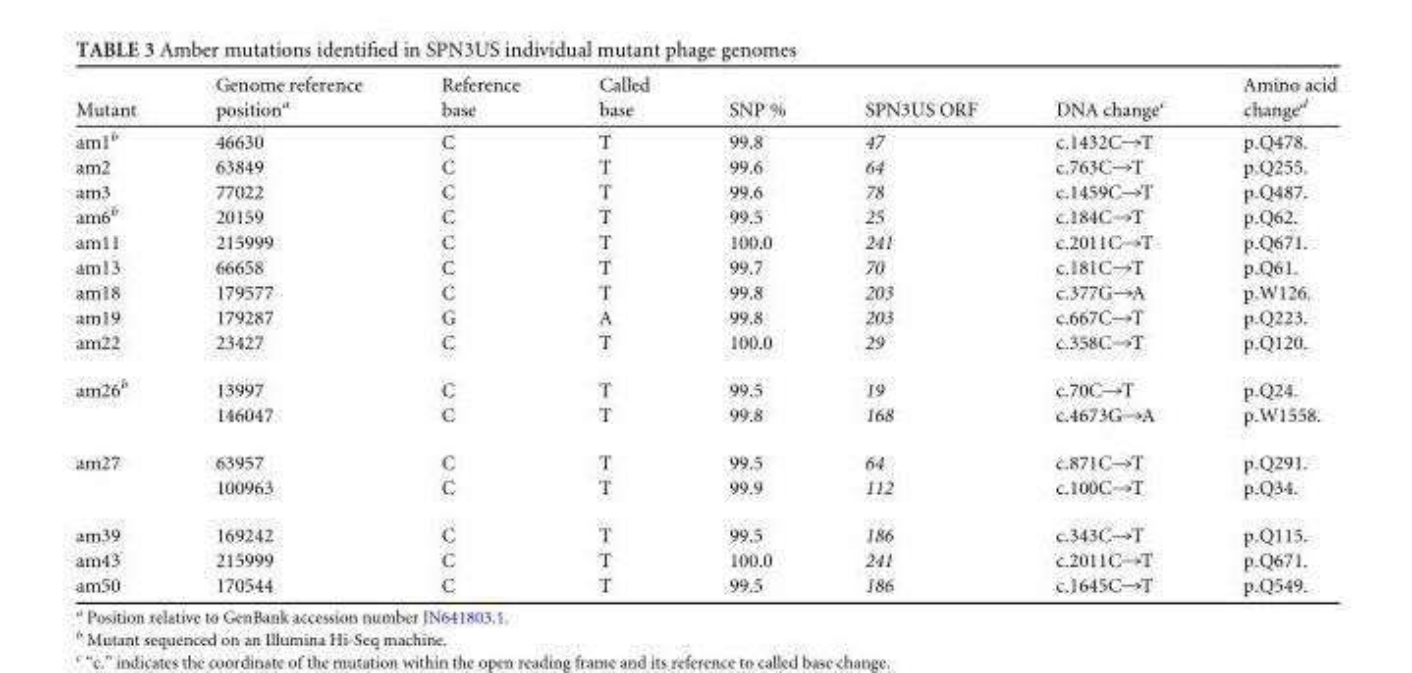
<table><thead><tr><td>Mutant</td><td>Genome reference position<sup>a</sup></td><td>Reference base</td><td>Called base</td><td>SNP %</td><td>SPN3US ORF</td><td>DNA change<sup>c</sup></td><td>Amino acid change<sup>d</sup></td></tr></thead><tbody><tr><td>am1<sup>b</sup></td><td>46630</td><td>C</td><td>T</td><td>99.8</td><td>47</td><td>c.1432C→T</td><td>p.Q478.</td></tr><tr><td>am2</td><td>63849</td><td>C</td><td>T</td><td>99.6</td><td>64</td><td>c.763C→T</td><td>p.Q255.</td></tr><tr><td>am3</td><td>77022</td><td>C</td><td>T</td><td>99.6</td><td>78</td><td>c.1459C→T</td><td>p.Q487.</td></tr><tr><td>am6<sup>b</sup></td><td>20159</td><td>C</td><td>T</td><td>99.5</td><td>25</td><td>c.184C→T</td><td>p.Q62.</td></tr><tr><td>am11</td><td>215999</td><td>C</td><td>T</td><td>100.0</td><td>241</td><td>c.2011C→T</td><td>p.Q671.</td></tr><tr><td>am13</td><td>66658</td><td>C</td><td>T</td><td>99.7</td><td>70</td><td>c.181C→T</td><td>p.Q61.</td></tr><tr><td>am18</td><td>179577</td><td>C</td><td>T</td><td>99.8</td><td>203</td><td>c.377G→A</td><td>p.W126.</td></tr><tr><td>am19</td><td>179287</td><td>G</td><td>A</td><td>99.8</td><td>203</td><td>c.667C→T</td><td>p.Q223.</td></tr><tr><td>am22</td><td>23427</td><td>C</td><td>T</td><td>100.0</td><td>29</td><td>c.358C→T</td><td>p.Q120.</td></tr><tr><td rowspan="2">am26<sup>b</sup></td><td>13997</td><td>C</td><td>T</td><td>99.5</td><td>19</td><td>c.70C→T</td><td>p.Q24.</td></tr><tr><td>146047</td><td>C</td><td>T</td><td>99.8</td><td>168</td><td>c.4673G→A</td><td>p.W1558.</td></tr><tr><td rowspan="2">am27</td><td>63957</td><td>C</td><td>T</td><td>99.5</td><td>64</td><td>c.871C→T</td><td>p.Q291.</td></tr><tr><td>100963</td><td>C</td><td>T</td><td>99.9</td><td>112</td><td>c.100C→T</td><td>p.Q34.</td></tr><tr><td>am39</td><td>169242</td><td>C</td><td>T</td><td>99.5</td><td>186</td><td>c.343C→T</td><td>p.Q115.</td></tr><tr><td>am43</td><td>215999</td><td>C</td><td>T</td><td>100.0</td><td>241</td><td>c.2011C→T</td><td>p.Q671.</td></tr><tr><td>am50</td><td>170544</td><td>C</td><td>T</td><td>99.5</td><td>186</td><td>c.1645C→T</td><td>p.Q549.</td></tr></tbody></table>